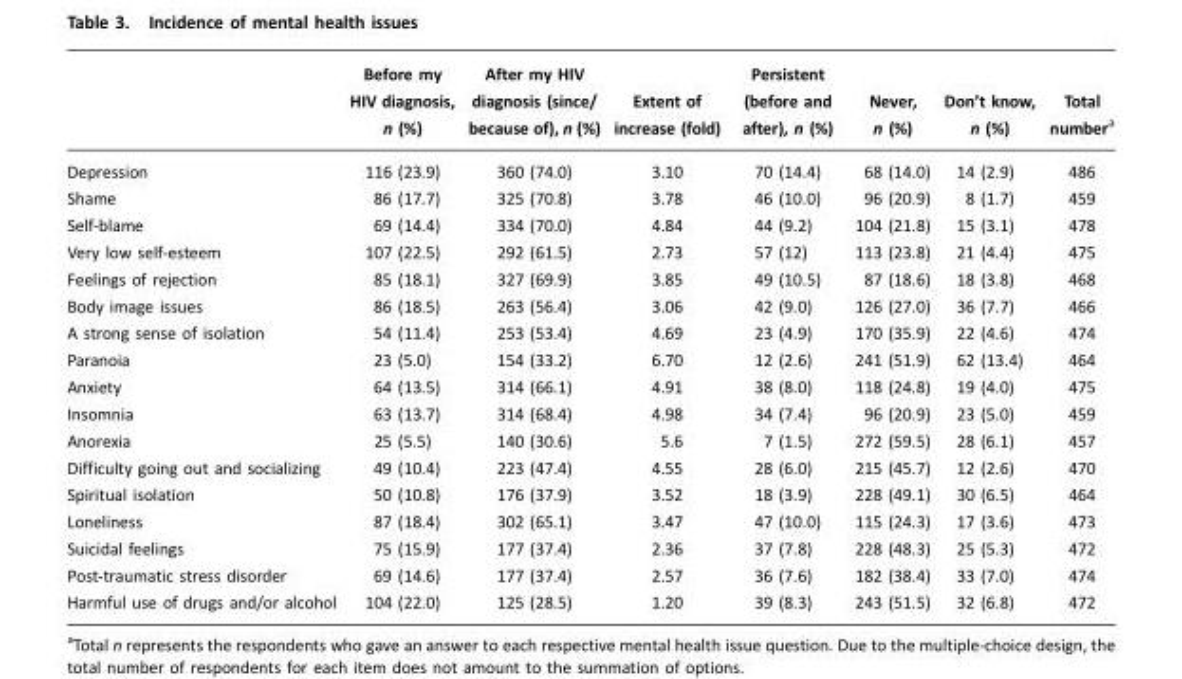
<table><thead><tr><td></td><td>Before my HIV diagnosis, n (%)</td><td>After my HIV diagnosis (since/ because of), n (%)</td><td>Extent of increase (fold)</td><td>Persistent (before and after), n (%)</td><td>Never, n (%)</td><td>Don’t know, n (%)</td><td>Total number<sup>a</sup></td></tr></thead><tbody><tr><td>Depression</td><td>116 (23.9)</td><td>360 (74.0)</td><td>3.10</td><td>70 (14.4)</td><td>68 (14.0)</td><td>14 (2.9)</td><td>486</td></tr><tr><td>Shame</td><td>86 (17.7)</td><td>325 (70.8)</td><td>3.78</td><td>46 (10.0)</td><td>96 (20.9)</td><td>8 (1.7)</td><td>459</td></tr><tr><td>Self-blame</td><td>69 (14.4)</td><td>334 (70.0)</td><td>4.84</td><td>44 (9.2)</td><td>104 (21.8)</td><td>15 (3.1)</td><td>478</td></tr><tr><td>Very low self-esteem</td><td>107 (22.5)</td><td>292 (61.5)</td><td>2.73</td><td>57 (12)</td><td>113 (23.8)</td><td>21 (4.4)</td><td>475</td></tr><tr><td>Feelings of rejection</td><td>85 (18.1)</td><td>327 (69.9)</td><td>3.85</td><td>49 (10.5)</td><td>87 (18.6)</td><td>18 (3.8)</td><td>468</td></tr><tr><td>Body image issues</td><td>86 (18.5)</td><td>263 (56.4)</td><td>3.06</td><td>42 (9.0)</td><td>126 (27.0)</td><td>36 (7.7)</td><td>466</td></tr><tr><td>A strong sense of isolation</td><td>54 (11.4)</td><td>253 (53.4)</td><td>4.69</td><td>23 (4.9)</td><td>170 (35.9)</td><td>22 (4.6)</td><td>474</td></tr><tr><td>Paranoia</td><td>23 (5.0)</td><td>154 (33.2)</td><td>6.70</td><td>12 (2.6)</td><td>241 (51.9)</td><td>62 (13.4)</td><td>464</td></tr><tr><td>Anxiety</td><td>64 (13.5)</td><td>314 (66.1)</td><td>4.91</td><td>38 (8.0)</td><td>118 (24.8)</td><td>19 (4.0)</td><td>475</td></tr><tr><td>Insomnia</td><td>63 (13.7)</td><td>314 (68.4)</td><td>4.98</td><td>34 (7.4)</td><td>96 (20.9)</td><td>23 (5.0)</td><td>459</td></tr><tr><td>Anorexia</td><td>25 (5.5)</td><td>140 (30.6)</td><td>5.6</td><td>7 (1.5)</td><td>272 (59.5)</td><td>28 (6.1)</td><td>457</td></tr><tr><td>Difficulty going out and socializing</td><td>49 (10.4)</td><td>223 (47.4)</td><td>4.55</td><td>28 (6.0)</td><td>215 (45.7)</td><td>12 (2.6)</td><td>470</td></tr><tr><td>Spiritual isolation</td><td>50 (10.8)</td><td>176 (37.9)</td><td>3.52</td><td>18 (3.9)</td><td>228 (49.1)</td><td>30 (6.5)</td><td>464</td></tr><tr><td>Loneliness</td><td>87 (18.4)</td><td>302 (65.1)</td><td>3.47</td><td>47 (10.0)</td><td>115 (24.3)</td><td>17 (3.6)</td><td>473</td></tr><tr><td>Suicidal feelings</td><td>75 (15.9)</td><td>177 (37.4)</td><td>2.36</td><td>37 (7.8)</td><td>228 (48.3)</td><td>25 (5.3)</td><td>472</td></tr><tr><td>Post-traumatic stress disorder</td><td>69 (14.6)</td><td>177 (37.4)</td><td>2.57</td><td>36 (7.6)</td><td>182 (38.4)</td><td>33 (7.0)</td><td>474</td></tr><tr><td>Harmful use of drugs and/or alcohol</td><td>104 (22.0)</td><td>125 (28.5)</td><td>1.20</td><td>39 (8.3)</td><td>243 (51.5)</td><td>32 (6.8)</td><td>472</td></tr></tbody></table>